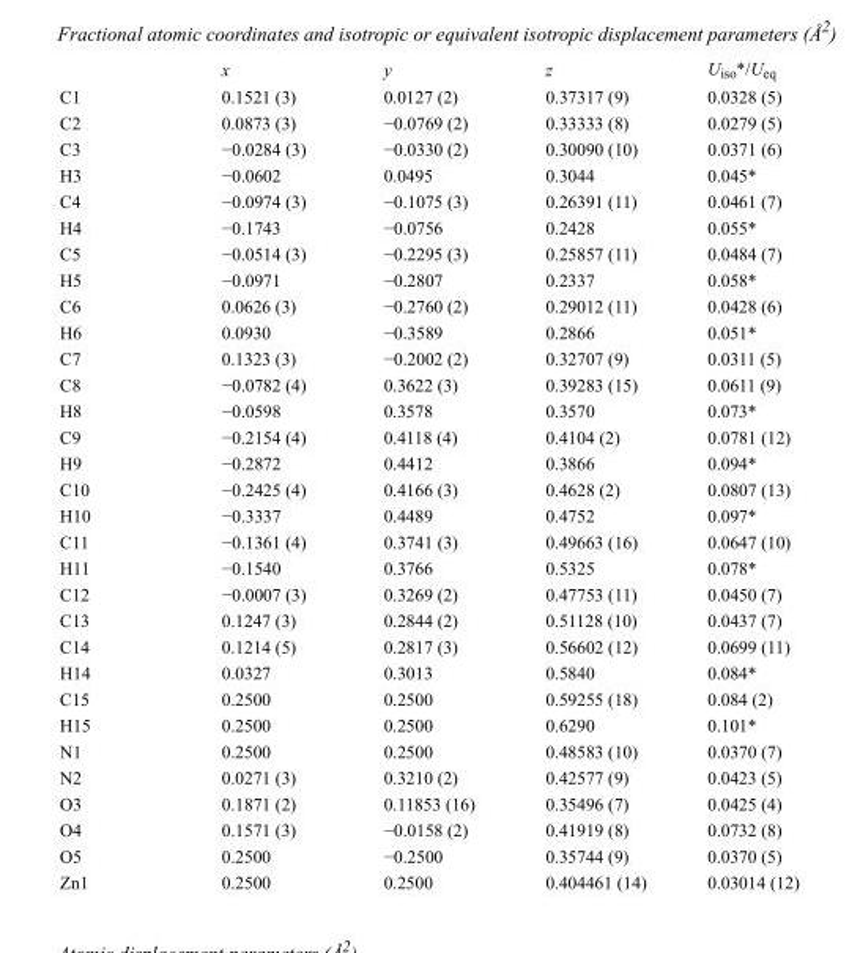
<table><thead><tr><td></td><td>x</td><td>y</td><td>z</td><td>U<sub>iso</sub>*/U<sub>eq</sub></td></tr></thead><tbody><tr><td>C1</td><td>0.1521 (3)</td><td>0.0127 (2)</td><td>0.37317 (9)</td><td>0.0328 (5)</td></tr><tr><td>C2</td><td>0.0873 (3)</td><td>−0.0769 (2)</td><td>0.33333 (8)</td><td>0.0279 (5)</td></tr><tr><td>C3</td><td>−0.0284 (3)</td><td>−0.0330 (2)</td><td>0.30090 (10)</td><td>0.0371 (6)</td></tr><tr><td>H3</td><td>−0.0602</td><td>0.0495</td><td>0.3044</td><td>0.045*</td></tr><tr><td>C4</td><td>−0.0974 (3)</td><td>−0.1075 (3)</td><td>0.26391 (11)</td><td>0.0461 (7)</td></tr><tr><td>H4</td><td>−0.1743</td><td>−0.0756</td><td>0.2428</td><td>0.055*</td></tr><tr><td>C5</td><td>−0.0514 (3)</td><td>−0.2295 (3)</td><td>0.25857 (11)</td><td>0.0484 (7)</td></tr><tr><td>H5</td><td>−0.0971</td><td>−0.2807</td><td>0.2337</td><td>0.058*</td></tr><tr><td>C6</td><td>0.0626 (3)</td><td>−0.2760 (2)</td><td>0.29012 (11)</td><td>0.0428 (6)</td></tr><tr><td>H6</td><td>0.0930</td><td>−0.3589</td><td>0.2866</td><td>0.051*</td></tr><tr><td>C7</td><td>0.1323 (3)</td><td>−0.2002 (2)</td><td>0.32707 (9)</td><td>0.0311 (5)</td></tr><tr><td>C8</td><td>−0.0782 (4)</td><td>0.3622 (3)</td><td>0.39283 (15)</td><td>0.0611 (9)</td></tr><tr><td>H8</td><td>−0.0598</td><td>0.3578</td><td>0.3570</td><td>0.073*</td></tr><tr><td>C9</td><td>−0.2154 (4)</td><td>0.4118 (4)</td><td>0.4104 (2)</td><td>0.0781 (12)</td></tr><tr><td>H9</td><td>−0.2872</td><td>0.4412</td><td>0.3866</td><td>0.094*</td></tr><tr><td>C10</td><td>−0.2425 (4)</td><td>0.4166 (3)</td><td>0.4628 (2)</td><td>0.0807 (13)</td></tr><tr><td>H10</td><td>−0.3337</td><td>0.4489</td><td>0.4752</td><td>0.097*</td></tr><tr><td>C11</td><td>−0.1361 (4)</td><td>0.3741 (3)</td><td>0.49663 (16)</td><td>0.0647 (10)</td></tr><tr><td>H11</td><td>−0.1540</td><td>0.3766</td><td>0.5325</td><td>0.078*</td></tr><tr><td>C12</td><td>−0.0007 (3)</td><td>0.3269 (2)</td><td>0.47753 (11)</td><td>0.0450 (7)</td></tr><tr><td>C13</td><td>0.1247 (3)</td><td>0.2844 (2)</td><td>0.51128 (10)</td><td>0.0437 (7)</td></tr><tr><td>C14</td><td>0.1214 (5)</td><td>0.2817 (3)</td><td>0.56602 (12)</td><td>0.0699 (11)</td></tr><tr><td>H14</td><td>0.0327</td><td>0.3013</td><td>0.5840</td><td>0.084*</td></tr><tr><td>C15</td><td>0.2500</td><td>0.2500</td><td>0.59255 (18)</td><td>0.084 (2)</td></tr><tr><td>H15</td><td>0.2500</td><td>0.2500</td><td>0.6290</td><td>0.101*</td></tr><tr><td>N1</td><td>0.2500</td><td>0.2500</td><td>0.48583 (10)</td><td>0.0370 (7)</td></tr><tr><td>N2</td><td>0.0271 (3)</td><td>0.3210 (2)</td><td>0.42577 (9)</td><td>0.0423 (5)</td></tr><tr><td>O3</td><td>0.1871 (2)</td><td>0.11853 (16)</td><td>0.35496 (7)</td><td>0.0425 (4)</td></tr><tr><td>O4</td><td>0.1571 (3)</td><td>−0.0158 (2)</td><td>0.41919 (8)</td><td>0.0732 (8)</td></tr><tr><td>O5</td><td>0.2500</td><td>−0.2500</td><td>0.35744 (9)</td><td>0.0370 (5)</td></tr><tr><td>Zn1</td><td>0.2500</td><td>0.2500</td><td>0.404461 (14)</td><td>0.03014 (12)</td></tr></tbody></table>